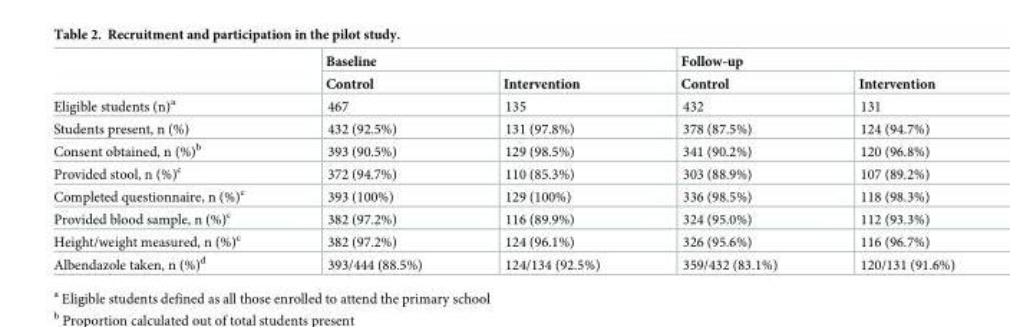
<table><thead><tr><td rowspan="2"></td><td colspan="2">Baseline</td><td colspan="2">Follow-up</td></tr><tr><td>Control</td><td>Intervention</td><td>Control</td><td>Intervention</td></tr></thead><tbody><tr><td>Eligible students (n)<sup>a</sup></td><td>467</td><td>135</td><td>432</td><td>131</td></tr><tr><td>Students present, n (%)</td><td>432 (92.5%)</td><td>131 (97.8%)</td><td>378 (87.5%)</td><td>124 (94.7%)</td></tr><tr><td>Consent obtained, n (%)<sup>b</sup></td><td>393 (90.5%)</td><td>129 (98.5%)</td><td>341 (90.2%)</td><td>120 (96.8%)</td></tr><tr><td>Provided stool, n (%)<sup>c</sup></td><td>372 (94.7%)</td><td>110 (85.3%)</td><td>303 (88.9%)</td><td>107 (89.2%)</td></tr><tr><td>Completed questionnaire, n (%)<sup>c</sup></td><td>393 (100%)</td><td>129 (100%)</td><td>336 (98.5%)</td><td>118 (98.3%)</td></tr><tr><td>Provided blood sample, n (%)<sup>c</sup></td><td>382 (97.2%)</td><td>116 (89.9%)</td><td>324 (95.0%)</td><td>112 (93.3%)</td></tr><tr><td>Height/weight measured, n (%)<sup>c</sup></td><td>382 (97.2%)</td><td>124 (96.1%)</td><td>326 (95.6%)</td><td>116 (96.7%)</td></tr><tr><td>Albendazole taken, n (%)<sup>d</sup></td><td>393/444 (88.5%)</td><td>124/134 (92.5%)</td><td>359/432 (83.1%)</td><td>120/131 (91.6%)</td></tr></tbody></table>